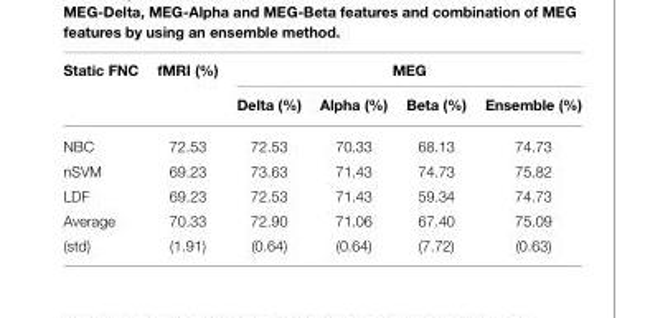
<table><thead><tr><td rowspan="2">Static FNC</td><td rowspan="2">fMRI (%)</td><td colspan="4">MEG</td></tr><tr><td>Delta (%)</td><td>Alpha (%)</td><td>Beta (%)</td><td>Ensemble (%)</td></tr></thead><tbody><tr><td>NBC</td><td>72.53</td><td>72.53</td><td>70.33</td><td>68.13</td><td>74.73</td></tr><tr><td>nSVM</td><td>69.23</td><td>73.63</td><td>71.43</td><td>74.73</td><td>75.82</td></tr><tr><td>LDF</td><td>69.23</td><td>72.53</td><td>71.43</td><td>59.34</td><td>74.73</td></tr><tr><td>Average</td><td>70.33</td><td>72.90</td><td>71.06</td><td>67.40</td><td>75.09</td></tr><tr><td>(std)</td><td>(1.91)</td><td>(0.64)</td><td>(0.64)</td><td>(7.72)</td><td>(0.63)</td></tr></tbody></table>